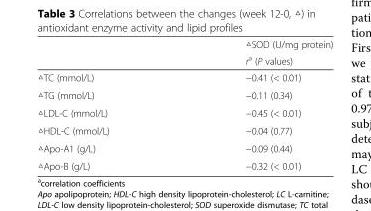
<table><thead><tr><td rowspan="2"></td><td rowspan="2">△SOD (U/mg protein) r<sup>a</sup> (P values)</td></tr><tr></tr></thead><tbody><tr><td>△TC (mmol/L)</td><td>−0.41 (&lt; 0.01)</td></tr><tr><td>△TG (mmol/L)</td><td>−0.11 (0.34)</td></tr><tr><td>△LDL-C (mmol/L)</td><td>−0.45 (&lt; 0.01)</td></tr><tr><td>△HDL-C (mmol/L)</td><td>−0.04 (0.77)</td></tr><tr><td>△Apo-A1 (g/L)</td><td>−0.09 (0.44)</td></tr><tr><td>△Apo-B (g/L)</td><td>−0.32 (&lt; 0.01)</td></tr></tbody></table>